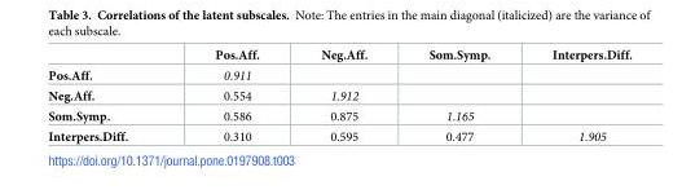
<table><thead><tr><td></td><td>Pos.Aff.</td><td>Neg.Aff.</td><td>Som.Symp.</td><td>Interpers.Diff.</td></tr></thead><tbody><tr><td>Pos.Aff.</td><td>0.911</td><td></td><td></td><td></td></tr><tr><td>Neg.Aff.</td><td>0.554</td><td>1.912</td><td></td><td></td></tr><tr><td>Som.Symp.</td><td>0.586</td><td>0.875</td><td>1.165</td><td></td></tr><tr><td>Interpers.Diff.</td><td>0.310</td><td>0.595</td><td>0.477</td><td>1.905</td></tr></tbody></table>